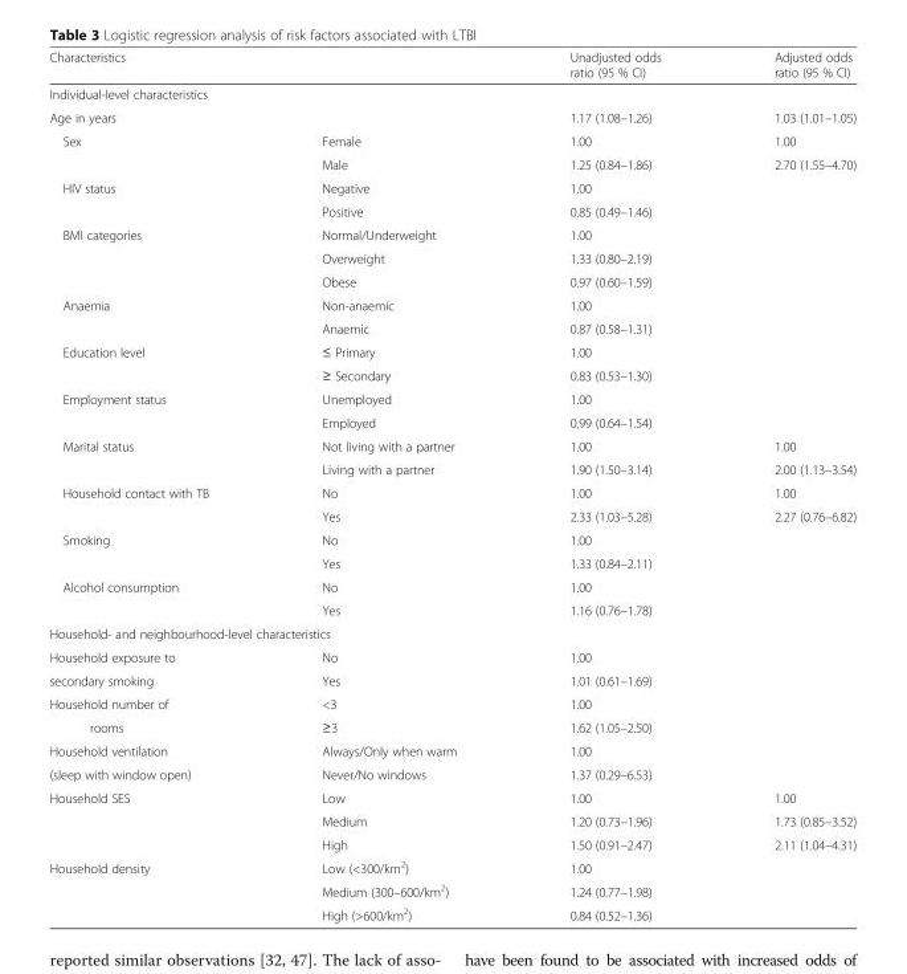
<table><thead><tr><td>Characteristics</td><td></td><td>Unadjusted odds ratio (95 % CI)</td><td>Adjusted odds ratio (95 % CI)</td></tr></thead><tbody><tr><td colspan="4">Individual-level characteristics</td></tr><tr><td>Age in years</td><td></td><td>1.17 (1.08–1.26)</td><td>1.03 (1.01–1.05)</td></tr><tr><td rowspan="2">Sex</td><td>Female</td><td>1.00</td><td>1.00</td></tr><tr><td>Male</td><td>1.25 (0.84–1.86)</td><td>2.70 (1.55–4.70)</td></tr><tr><td rowspan="2">HIV status</td><td>Negative</td><td>1.00</td><td></td></tr><tr><td>Positive</td><td>0.85 (0.49–1.46)</td><td></td></tr><tr><td rowspan="3">BMI categories</td><td>Normal/Underweight</td><td>1.00</td><td></td></tr><tr><td>Overweight</td><td>1.33 (0.80–2.19)</td><td></td></tr><tr><td>Obese</td><td>0.97 (0.60–1.59)</td><td></td></tr><tr><td rowspan="2">Anaemia</td><td>Non-anaemic</td><td>1.00</td><td></td></tr><tr><td>Anaemic</td><td>0.87 (0.58–1.31)</td><td></td></tr><tr><td rowspan="2">Education level</td><td>≤ Primary</td><td>1.00</td><td></td></tr><tr><td>≥ Secondary</td><td>0.83 (0.53–1.30)</td><td></td></tr><tr><td rowspan="2">Employment status</td><td>Unemployed</td><td>1.00</td><td></td></tr><tr><td>Employed</td><td>0.99 (0.64–1.54)</td><td></td></tr><tr><td rowspan="2">Marital status</td><td>Not living with a partner</td><td>1.00</td><td>1.00</td></tr><tr><td>Living with a partner</td><td>1.90 (1.50–3.14)</td><td>2.00 (1.13–3.54)</td></tr><tr><td rowspan="2">Household contact with TB</td><td>No</td><td>1.00</td><td>1.00</td></tr><tr><td>Yes</td><td>2.33 (1.03–5.28)</td><td>2.27 (0.76–6.82)</td></tr><tr><td rowspan="2">Smoking</td><td>No</td><td>1.00</td><td></td></tr><tr><td>Yes</td><td>1.33 (0.84–2.11)</td><td></td></tr><tr><td rowspan="2">Alcohol consumption</td><td>No</td><td>1.00</td><td></td></tr><tr><td>Yes</td><td>1.16 (0.76–1.78)</td><td></td></tr><tr><td colspan="4">Household- and neighbourhood-level characteristics</td></tr><tr><td>Household exposure to</td><td>No</td><td>1.00</td><td></td></tr><tr><td>secondary smoking</td><td>Yes</td><td>1.01 (0.61–1.69)</td><td></td></tr><tr><td>Household number of</td><td>&lt;3</td><td>1.00</td><td></td></tr><tr><td>rooms</td><td>≥3</td><td>1.62 (1.05–2.50)</td><td></td></tr><tr><td>Household ventilation</td><td>Always/Only when warm</td><td>1.00</td><td></td></tr><tr><td>(sleep with window open)</td><td>Never/No windows</td><td>1.37 (0.29–6.53)</td><td></td></tr><tr><td rowspan="3">Household SES</td><td>Low</td><td>1.00</td><td>1.00</td></tr><tr><td>Medium</td><td>1.20 (0.73–1.96)</td><td>1.73 (0.85–3.52)</td></tr><tr><td>High</td><td>1.50 (0.91–2.47)</td><td>2.11 (1.04–4.31)</td></tr><tr><td rowspan="3">Household density</td><td>Low (&lt;300/km<sup>2</sup>)</td><td>1.00</td><td></td></tr><tr><td>Medium (300–600/km<sup>2</sup>)</td><td>1.24 (0.77–1.98)</td><td></td></tr><tr><td>High (&gt;600/km<sup>2</sup>)</td><td>0.84 (0.52–1.36)</td><td></td></tr></tbody></table>